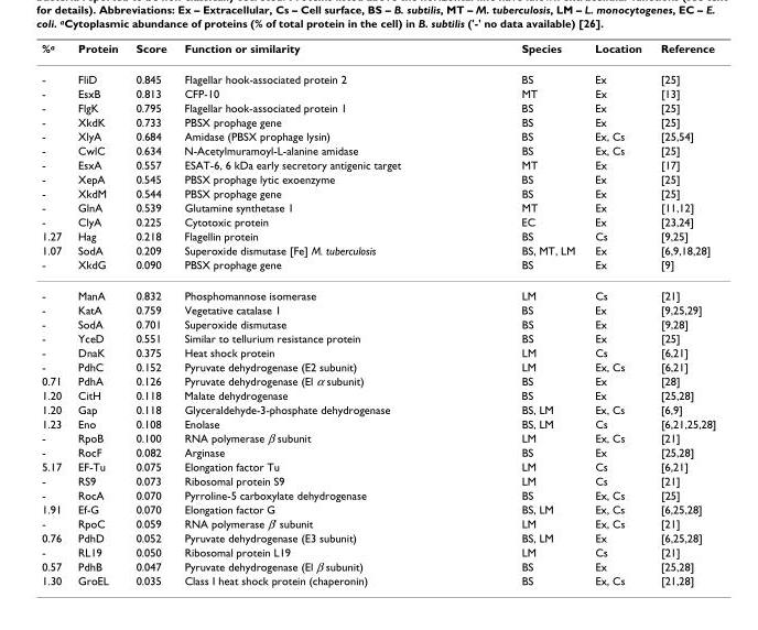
<table><thead><tr><td>%a</td><td>Protein</td><td>Score</td><td>Function or similarity</td><td>Species</td><td>Location</td><td>Reference</td></tr></thead><tbody><tr><td>-</td><td>FliD</td><td>0.845</td><td>Flagellar hook-associated protein 2</td><td>BS</td><td>Ex</td><td>[25]</td></tr><tr><td>-</td><td>EsxB</td><td>0.813</td><td>CFP-10</td><td>MT</td><td>Ex</td><td>[13]</td></tr><tr><td>-</td><td>FlgK</td><td>0.795</td><td>Flagellar hook-associated protein 1</td><td>BS</td><td>Ex</td><td>[25]</td></tr><tr><td>-</td><td>XkdK</td><td>0.733</td><td>PBSX prophage gene</td><td>BS</td><td>Ex</td><td>[25]</td></tr><tr><td>-</td><td>XlyA</td><td>0.684</td><td>Amidase (PBSX prophage lysin)</td><td>BS</td><td>Ex, Cs</td><td>[25,54]</td></tr><tr><td>-</td><td>CwlC</td><td>0.634</td><td>N-Acetylmuramoyl-L-alanine amidase</td><td>BS</td><td>Ex, Cs</td><td>[25]</td></tr><tr><td>-</td><td>EsxA</td><td>0.557</td><td>ESAT-6, 6 kDa early secretory antigenic target</td><td>MT</td><td>Ex</td><td>[17]</td></tr><tr><td>-</td><td>XepA</td><td>0.545</td><td>PBSX prophage lytic exoenzyme</td><td>BS</td><td>Ex</td><td>[25]</td></tr><tr><td>-</td><td>XkdM</td><td>0.544</td><td>PBSX prophage gene</td><td>BS</td><td>Ex</td><td>[25]</td></tr><tr><td>-</td><td>GlnA</td><td>0.539</td><td>Glutamine synthetase 1</td><td>MT</td><td>Ex</td><td>[11,12]</td></tr><tr><td>-</td><td>ClyA</td><td>0.225</td><td>Cytotoxic protein</td><td>EC</td><td>Ex</td><td>[23,24]</td></tr><tr><td>1.27</td><td>Hag</td><td>0.218</td><td>Flagellin protein</td><td>BS</td><td>Cs</td><td>[9,25]</td></tr><tr><td>1.07</td><td>SodA</td><td>0.209</td><td>Superoxide dismutase [Fe] M. tuberculosis</td><td>BS, MT, LM</td><td>Ex</td><td>[6,9,18,28]</td></tr><tr><td>-</td><td>XkdG</td><td>0.090</td><td>PBSX prophage gene</td><td>BS</td><td>Ex</td><td>[9]</td></tr><tr><td>-</td><td>ManA</td><td>0.832</td><td>Phosphomannose isomerase</td><td>LM</td><td>Cs</td><td>[21]</td></tr><tr><td>-</td><td>KatA</td><td>0.759</td><td>Vegetative catalase 1</td><td>BS</td><td>Ex</td><td>[9,25,29]</td></tr><tr><td>-</td><td>SodA</td><td>0.701</td><td>Superoxide dismutase</td><td>BS</td><td>Ex</td><td>[9,28]</td></tr><tr><td>-</td><td>YceD</td><td>0.551</td><td>Similar to tellurium resistance protein</td><td>BS</td><td>Ex</td><td>[25]</td></tr><tr><td>-</td><td>DnaK</td><td>0.375</td><td>Heat shock protein</td><td>LM</td><td>Cs</td><td>[6,21]</td></tr><tr><td>-</td><td>PdhC</td><td>0.152</td><td>Pyruvate dehydrogenase (E2 subunit)</td><td>LM</td><td>Ex, Cs</td><td>[6,21]</td></tr><tr><td>0.71</td><td>PdhA</td><td>0.126</td><td>Pyruvate dehydrogenase (El α subunit)</td><td>BS</td><td>Ex</td><td>[28]</td></tr><tr><td>1.20</td><td>CitH</td><td>0.118</td><td>Malate dehydrogenase</td><td>BS</td><td>Ex</td><td>[25,28]</td></tr><tr><td>1.20</td><td>Gap</td><td>0.118</td><td>Glyceraldehyde-3-phosphate dehydrogenase</td><td>BS, LM</td><td>Ex, Cs</td><td>[6,9]</td></tr><tr><td>1.23</td><td>Eno</td><td>0.108</td><td>Enolase</td><td>BS, LM</td><td>Cs</td><td>[6,21,25,28]</td></tr><tr><td>-</td><td>RpoB</td><td>0.100</td><td>RNA polymerase β subunit</td><td>LM</td><td>Ex, Cs</td><td>[21]</td></tr><tr><td>-</td><td>RocF</td><td>0.082</td><td>Arginase</td><td>BS</td><td>Ex</td><td>[25,28]</td></tr><tr><td>5.17</td><td>EF-Tu</td><td>0.075</td><td>Elongation factor Tu</td><td>LM</td><td>Cs</td><td>[6,21]</td></tr><tr><td>-</td><td>RS9</td><td>0.073</td><td>Ribosomal protein S9</td><td>LM</td><td>Cs</td><td>[21]</td></tr><tr><td>-</td><td>RocA</td><td>0.070</td><td>Pyrroline-5 carboxylate dehydrogenase</td><td>BS</td><td>Ex, Cs</td><td>[25]</td></tr><tr><td>1.91</td><td>Ef-G</td><td>0.070</td><td>Elongation factor G</td><td>BS, LM</td><td>Ex, Cs</td><td>[6,25,28]</td></tr><tr><td>-</td><td>RpoC</td><td>0.059</td><td>RNA polymerase β&#x27; subunit</td><td>LM</td><td>Ex, Cs</td><td>[21]</td></tr><tr><td>0.76</td><td>PdhD</td><td>0.052</td><td>Pyruvate dehydrogenase (E3 subunit)</td><td>BS, LM</td><td>Ex</td><td>[6,25,28]</td></tr><tr><td>-</td><td>RL19</td><td>0.050</td><td>Ribosomal protein L19</td><td>LM</td><td>Cs</td><td>[21]</td></tr><tr><td>0.57</td><td>PdhB</td><td>0.047</td><td>Pyruvate dehydrogenase (El β subunit)</td><td>BS</td><td>Ex</td><td>[25,28]</td></tr><tr><td>1.30</td><td>GroEL</td><td>0.035</td><td>Class I heat shock protein (chaperonin)</td><td>BS</td><td>Ex, Cs</td><td>[21,28]</td></tr></tbody></table>